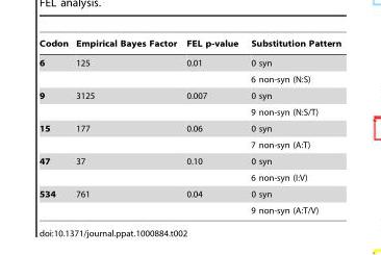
<table><thead><tr><td>Codon</td><td>Empirical Bayes Factor</td><td>FEL p-value</td><td>Substitution Pattern</td></tr></thead><tbody><tr><td rowspan="2">6</td><td>125</td><td>0.01</td><td>0 syn</td></tr><tr><td></td><td></td><td>6 non-syn (N:S)</td></tr><tr><td rowspan="2">9</td><td>3125</td><td>0.007</td><td>0 syn</td></tr><tr><td></td><td></td><td>9 non-syn (N:S/T)</td></tr><tr><td rowspan="2">15</td><td>177</td><td>0.06</td><td>0 syn</td></tr><tr><td></td><td></td><td>7 non-syn (A:T)</td></tr><tr><td rowspan="2">47</td><td>37</td><td>0.10</td><td>0 syn</td></tr><tr><td></td><td></td><td>6 non-syn (I:V)</td></tr><tr><td rowspan="2">534</td><td>761</td><td>0.04</td><td>0 syn</td></tr><tr><td></td><td></td><td>9 non-syn (A:T/V)</td></tr></tbody></table>